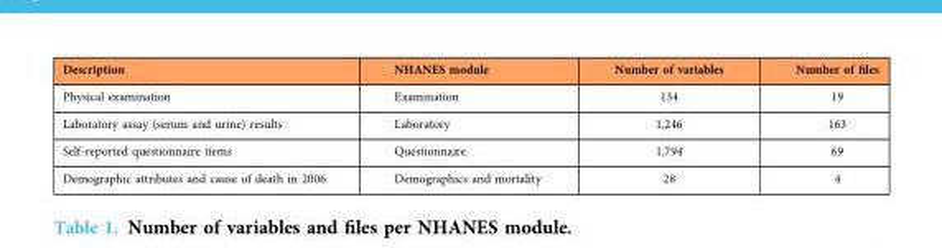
<table><thead><tr><td>Description</td><td>NHANES module</td><td>Number of variables</td><td>Number of files</td></tr></thead><tbody><tr><td>Physical examination</td><td>Examination</td><td>134</td><td>19</td></tr><tr><td>Laboratory assay (serum and urine) results</td><td>Laboratory</td><td>1,246</td><td>163</td></tr><tr><td>Self-reported questionnaire items</td><td>Questionnaire</td><td>1,794</td><td>69</td></tr><tr><td>Demographic attributes and cause of death in 2006</td><td>Demographics and mortality</td><td>28</td><td>4</td></tr></tbody></table>